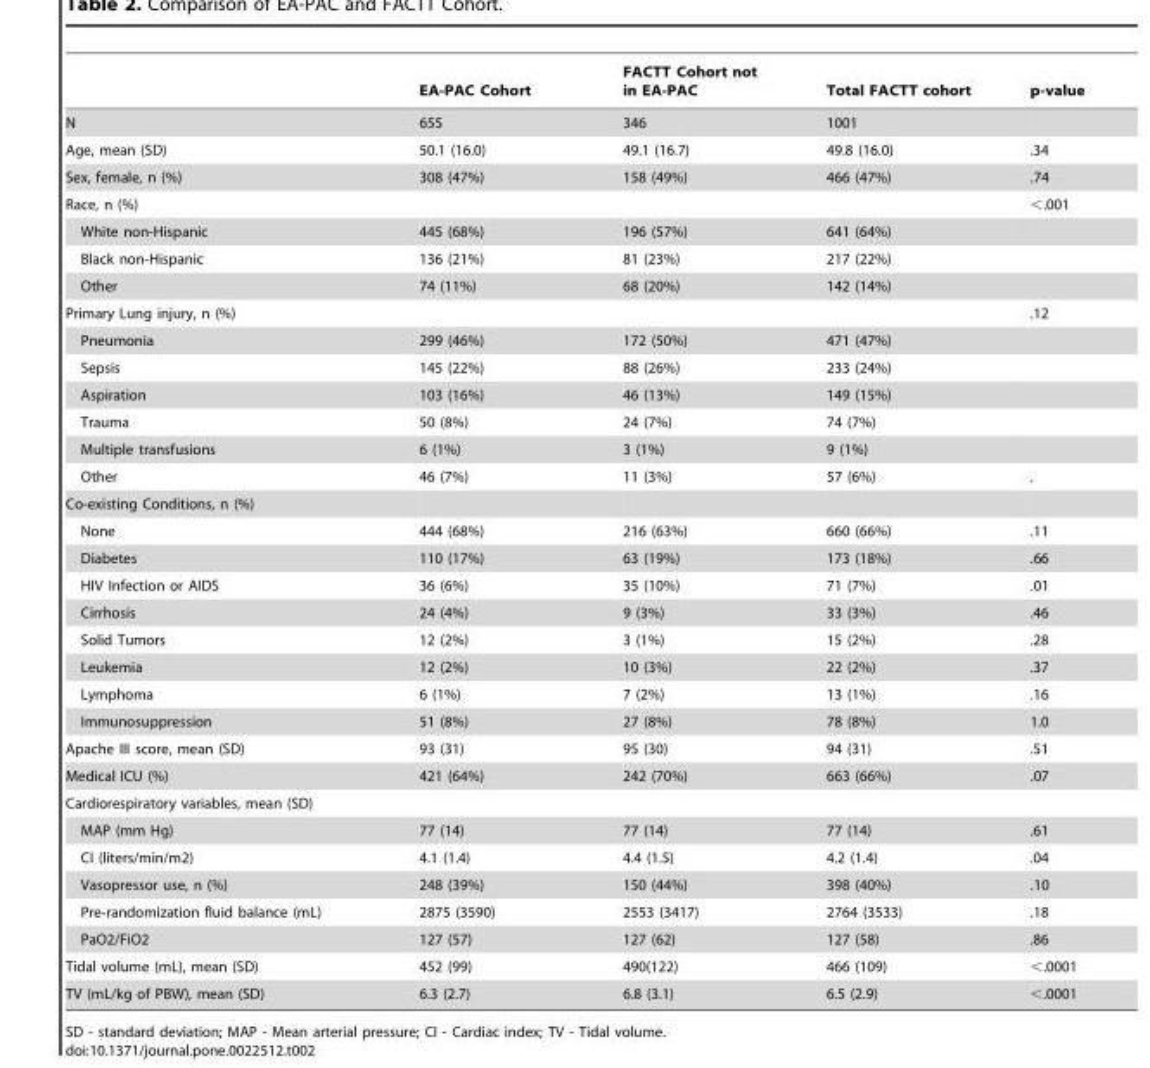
<table><thead><tr><td></td><td>EA-PAC Cohort</td><td>FACTT Cohort not in EA-PAC</td><td>Total FACTT cohort</td><td>p-value</td></tr></thead><tbody><tr><td>N</td><td>655</td><td>346</td><td>1001</td><td></td></tr><tr><td>Age, mean (SD)</td><td>50.1 (16.0)</td><td>49.1 (16.7)</td><td>49.8 (16.0)</td><td>.34</td></tr><tr><td>Sex, female, n (%)</td><td>308 (47%)</td><td>158 (49%)</td><td>466 (47%)</td><td>.74</td></tr><tr><td>Race, n (%)</td><td></td><td></td><td></td><td>&lt;.001</td></tr><tr><td>White non-Hispanic</td><td>445 (68%)</td><td>196 (57%)</td><td>641 (64%)</td><td></td></tr><tr><td>Black non-Hispanic</td><td>136 (21%)</td><td>81 (23%)</td><td>217 (22%)</td><td></td></tr><tr><td>Other</td><td>74 (11%)</td><td>68 (20%)</td><td>142 (14%)</td><td></td></tr><tr><td>Primary Lung injury, n (%)</td><td></td><td></td><td></td><td>.12</td></tr><tr><td>Pneumonia</td><td>299 (46%)</td><td>172 (50%)</td><td>471 (47%)</td><td></td></tr><tr><td>Sepsis</td><td>145 (22%)</td><td>88 (26%)</td><td>233 (24%)</td><td></td></tr><tr><td>Aspiration</td><td>103 (16%)</td><td>46 (13%)</td><td>149 (15%)</td><td></td></tr><tr><td>Trauma</td><td>50 (8%)</td><td>24 (7%)</td><td>74 (7%)</td><td></td></tr><tr><td>Multiple transfusions</td><td>6 (1%)</td><td>3 (1%)</td><td>9 (1%)</td><td></td></tr><tr><td>Other</td><td>46 (7%)</td><td>11 (3%)</td><td>57 (6%)</td><td>.</td></tr><tr><td colspan="5">Co-existing Conditions, n (%)</td></tr><tr><td>None</td><td>444 (68%)</td><td>216 (63%)</td><td>660 (66%)</td><td>.11</td></tr><tr><td>Diabetes</td><td>110 (17%)</td><td>63 (19%)</td><td>173 (18%)</td><td>.66</td></tr><tr><td>HIV Infection or AIDS</td><td>36 (6%)</td><td>35 (10%)</td><td>71 (7%)</td><td>.01</td></tr><tr><td>Cirrhosis</td><td>24 (4%)</td><td>9 (3%)</td><td>33 (3%)</td><td>.46</td></tr><tr><td>Solid Tumors</td><td>12 (2%)</td><td>3 (1%)</td><td>15 (2%)</td><td>.28</td></tr><tr><td>Leukemia</td><td>12 (2%)</td><td>10 (3%)</td><td>22 (2%)</td><td>.37</td></tr><tr><td>Lymphoma</td><td>6 (1%)</td><td>7 (2%)</td><td>13 (1%)</td><td>.16</td></tr><tr><td>Immunosuppression</td><td>51 (8%)</td><td>27 (8%)</td><td>78 (8%)</td><td>1.0</td></tr><tr><td>Apache III score, mean (SD)</td><td>93 (31)</td><td>95 (30)</td><td>94 (31)</td><td>.51</td></tr><tr><td>Medical ICU (%)</td><td>421 (64%)</td><td>242 (70%)</td><td>663 (66%)</td><td>.07</td></tr><tr><td colspan="5">Cardiorespiratory variables, mean (SD)</td></tr><tr><td>MAP (mm Hg)</td><td>77 (14)</td><td>77 (14)</td><td>77 (14)</td><td>.61</td></tr><tr><td>CI (liters/min/m2)</td><td>4.1 (1.4)</td><td>4.4 (1.5)</td><td>4.2 (1.4)</td><td>.04</td></tr><tr><td>Vasopressor use, n (%)</td><td>248 (39%)</td><td>150 (44%)</td><td>398 (40%)</td><td>.10</td></tr><tr><td>Pre-randomization fluid balance (mL)</td><td>2875 (3590)</td><td>2553 (3417)</td><td>2764 (3533)</td><td>.18</td></tr><tr><td>PaO2/FiO2</td><td>127 (57)</td><td>127 (62)</td><td>127 (58)</td><td>.86</td></tr><tr><td>Tidal volume (mL), mean (SD)</td><td>452 (99)</td><td>490(122)</td><td>466 (109)</td><td>&lt;.0001</td></tr><tr><td>TV (mL/kg of PBW), mean (SD)</td><td>6.3 (2.7)</td><td>6.8 (3.1)</td><td>6.5 (2.9)</td><td>&lt;.0001</td></tr></tbody></table>